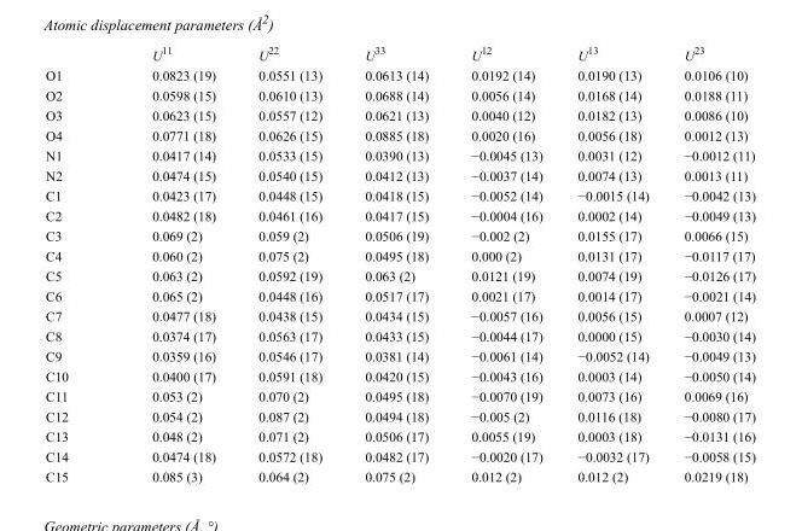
<table><thead><tr><td></td><td>U<sup>11</sup></td><td>U<sup>22</sup></td><td>U<sup>33</sup></td><td>U<sup>12</sup></td><td>U<sup>13</sup></td><td>U<sup>23</sup></td></tr></thead><tbody><tr><td>O1</td><td>0.0823 (19)</td><td>0.0551 (13)</td><td>0.0613 (14)</td><td>0.0192 (14)</td><td>0.0190 (13)</td><td>0.0106 (10)</td></tr><tr><td>O2</td><td>0.0598 (15)</td><td>0.0610 (13)</td><td>0.0688 (14)</td><td>0.0056 (14)</td><td>0.0168 (14)</td><td>0.0188 (11)</td></tr><tr><td>O3</td><td>0.0623 (15)</td><td>0.0557 (12)</td><td>0.0621 (13)</td><td>0.0040 (12)</td><td>0.0182 (13)</td><td>0.0086 (10)</td></tr><tr><td>O4</td><td>0.0771 (18)</td><td>0.0626 (15)</td><td>0.0885 (18)</td><td>0.0020 (16)</td><td>0.0056 (18)</td><td>0.0012 (13)</td></tr><tr><td>N1</td><td>0.0417 (14)</td><td>0.0533 (15)</td><td>0.0390 (13)</td><td>−0.0045 (13)</td><td>0.0031 (12)</td><td>−0.0012 (11)</td></tr><tr><td>N2</td><td>0.0474 (15)</td><td>0.0540 (15)</td><td>0.0412 (13)</td><td>−0.0037 (14)</td><td>0.0074 (13)</td><td>0.0013 (11)</td></tr><tr><td>C1</td><td>0.0423 (17)</td><td>0.0448 (15)</td><td>0.0418 (15)</td><td>−0.0052 (14)</td><td>−0.0015 (14)</td><td>−0.0042 (13)</td></tr><tr><td>C2</td><td>0.0482 (18)</td><td>0.0461 (16)</td><td>0.0417 (15)</td><td>−0.0004 (16)</td><td>0.0002 (14)</td><td>−0.0049 (13)</td></tr><tr><td>C3</td><td>0.069 (2)</td><td>0.059 (2)</td><td>0.0506 (19)</td><td>−0.002 (2)</td><td>0.0155 (17)</td><td>0.0066 (15)</td></tr><tr><td>C4</td><td>0.060 (2)</td><td>0.075 (2)</td><td>0.0495 (18)</td><td>0.000 (2)</td><td>0.0131 (17)</td><td>−0.0117 (17)</td></tr><tr><td>C5</td><td>0.063 (2)</td><td>0.0592 (19)</td><td>0.063 (2)</td><td>0.0121 (19)</td><td>0.0074 (19)</td><td>−0.0126 (17)</td></tr><tr><td>C6</td><td>0.065 (2)</td><td>0.0448 (16)</td><td>0.0517 (17)</td><td>0.0021 (17)</td><td>0.0014 (17)</td><td>−0.0021 (14)</td></tr><tr><td>C7</td><td>0.0477 (18)</td><td>0.0438 (15)</td><td>0.0434 (15)</td><td>−0.0057 (16)</td><td>0.0056 (15)</td><td>0.0007 (12)</td></tr><tr><td>C8</td><td>0.0374 (17)</td><td>0.0563 (17)</td><td>0.0433 (15)</td><td>−0.0044 (17)</td><td>0.0000 (15)</td><td>−0.0030 (14)</td></tr><tr><td>C9</td><td>0.0359 (16)</td><td>0.0546 (17)</td><td>0.0381 (14)</td><td>−0.0061 (14)</td><td>−0.0052 (14)</td><td>−0.0049 (13)</td></tr><tr><td>C10</td><td>0.0400 (17)</td><td>0.0591 (18)</td><td>0.0420 (15)</td><td>−0.0043 (16)</td><td>0.0003 (14)</td><td>−0.0050 (14)</td></tr><tr><td>C11</td><td>0.053 (2)</td><td>0.070 (2)</td><td>0.0495 (18)</td><td>−0.0070 (19)</td><td>0.0073 (16)</td><td>0.0069 (16)</td></tr><tr><td>C12</td><td>0.054 (2)</td><td>0.087 (2)</td><td>0.0494 (18)</td><td>−0.005 (2)</td><td>0.0116 (18)</td><td>−0.0080 (17)</td></tr><tr><td>C13</td><td>0.048 (2)</td><td>0.071 (2)</td><td>0.0506 (17)</td><td>0.0055 (19)</td><td>0.0003 (18)</td><td>−0.0131 (16)</td></tr><tr><td>C14</td><td>0.0474 (18)</td><td>0.0572 (18)</td><td>0.0482 (17)</td><td>−0.0020 (17)</td><td>−0.0032 (17)</td><td>−0.0058 (15)</td></tr><tr><td>C15</td><td>0.085 (3)</td><td>0.064 (2)</td><td>0.075 (2)</td><td>0.012 (2)</td><td>0.012 (2)</td><td>0.0219 (18)</td></tr></tbody></table>